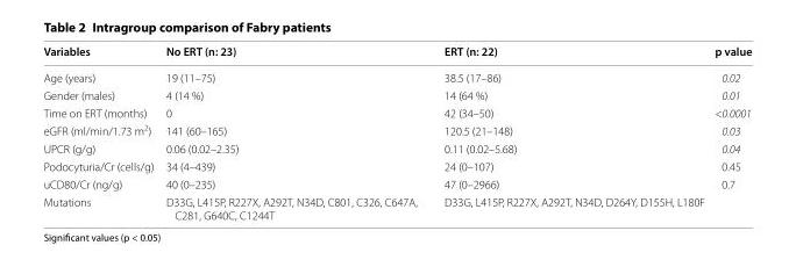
<table><thead><tr><td>Variables</td><td>No ERT (n: 23)</td><td>ERT (n: 22)</td><td>p value</td></tr></thead><tbody><tr><td>Age (years)</td><td>19 (11–75)</td><td>38.5 (17–86)</td><td>0.02</td></tr><tr><td>Gender (males)</td><td>4 (14 %)</td><td>14 (64 %)</td><td>0.01</td></tr><tr><td>Time on ERT (months)</td><td>0</td><td>42 (34–50)</td><td>&lt;0.0001</td></tr><tr><td>eGFR (ml/min/1.73 m<sup>2</sup>)</td><td>141 (60–165)</td><td>120.5 (21–148)</td><td>0.03</td></tr><tr><td>UPCR (g/g)</td><td>0.06 (0.02–2.35)</td><td>0.11 (0.02–5.68)</td><td>0.04</td></tr><tr><td>Podocyturia/Cr (cells/g)</td><td>34 (4–439)</td><td>24 (0–107)</td><td>0.45</td></tr><tr><td>uCD80/Cr (ng/g)</td><td>40 (0–235)</td><td>47 (0–2966)</td><td>0.7</td></tr><tr><td>Mutations</td><td>D33G, L415P, R227X, A292T, N34D, C801, C326, C647A, C281, G640C, C1244T</td><td>D33G, L415P, R227X, A292T, N34D, D264Y, D155H, L180F</td><td></td></tr></tbody></table>